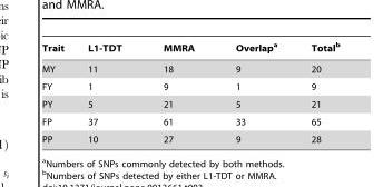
<table><thead><tr><td>Trait</td><td>L1-TDT</td><td>MMRA</td><td>Overlap<sup>a</sup></td><td>Total<sup>b</sup></td></tr></thead><tbody><tr><td>MY</td><td>11</td><td>18</td><td>9</td><td>20</td></tr><tr><td>FY</td><td>1</td><td>9</td><td>1</td><td>9</td></tr><tr><td>PY</td><td>5</td><td>21</td><td>5</td><td>21</td></tr><tr><td>FP</td><td>37</td><td>61</td><td>33</td><td>65</td></tr><tr><td>PP</td><td>10</td><td>27</td><td>9</td><td>28</td></tr></tbody></table>